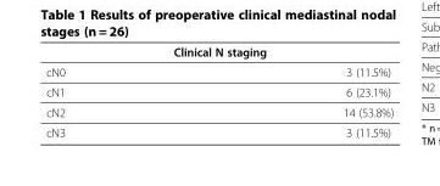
<table><thead><tr><td colspan="2">Clinical N staging</td></tr><tr><td>cN0</td><td>3 (11.5%)</td></tr></thead><tbody><tr><td>cN1</td><td>6 (23.1%)</td></tr><tr><td>cN2</td><td>14 (53.8%)</td></tr><tr><td>cN3</td><td>3 (11.5%)</td></tr></tbody></table>